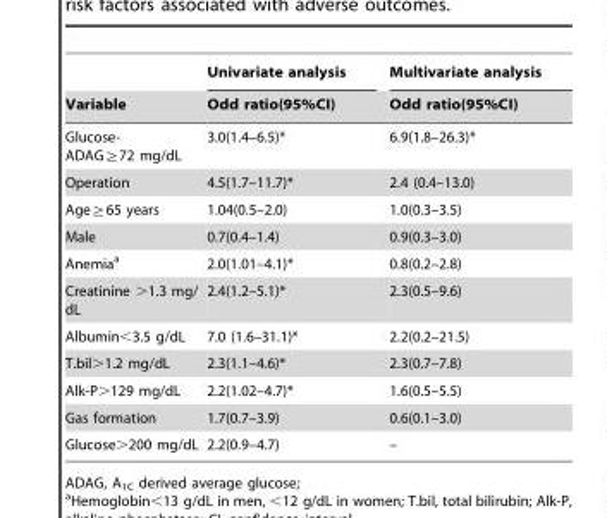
<table><thead><tr><td rowspan="2">Variable</td><td rowspan="2">Univariate analysis Odd ratio(95%CI)</td><td rowspan="2">Multivariate analysis Odd ratio(95%CI)</td></tr><tr></tr></thead><tbody><tr><td>Glucose- ADAG≧72 mg/dL</td><td>3.0(1.4–6.5)*</td><td>6.9(1.8–26.3)*</td></tr><tr><td>Operation</td><td>4.5(1.7–11.7)*</td><td>2.4 (0.4–13.0)</td></tr><tr><td>Age≧65 years</td><td>1.04(0.5–2.0)</td><td>1.0(0.3–3.5)</td></tr><tr><td>Male</td><td>0.7(0.4–1.4)</td><td>0.9(0.3–3.0)</td></tr><tr><td>Anemia<sup>a</sup></td><td>2.0(1.01–4.1)*</td><td>0.8(0.2–2.8)</td></tr><tr><td>Creatinine &gt;1.3 mg/ dL</td><td>2.4(1.2–5.1)*</td><td>2.3(0.5–9.6)</td></tr><tr><td>Albumin&lt;3.5 g/dL</td><td>7.0 (1.6–31.1)*</td><td>2.2(0.2–21.5)</td></tr><tr><td>T.bil&gt;1.2 mg/dL</td><td>2.3(1.1–4.6)*</td><td>2.3(0.7–7.8)</td></tr><tr><td>Alk-P&gt;129 mg/dL</td><td>2.2(1.02–4.7)*</td><td>1.6(0.5–5.5)</td></tr><tr><td>Gas formation</td><td>1.7(0.7–3.9)</td><td>0.6(0.1–3.0)</td></tr><tr><td>Glucose&gt;200 mg/dL</td><td>2.2(0.9–4.7)</td><td>–</td></tr></tbody></table>